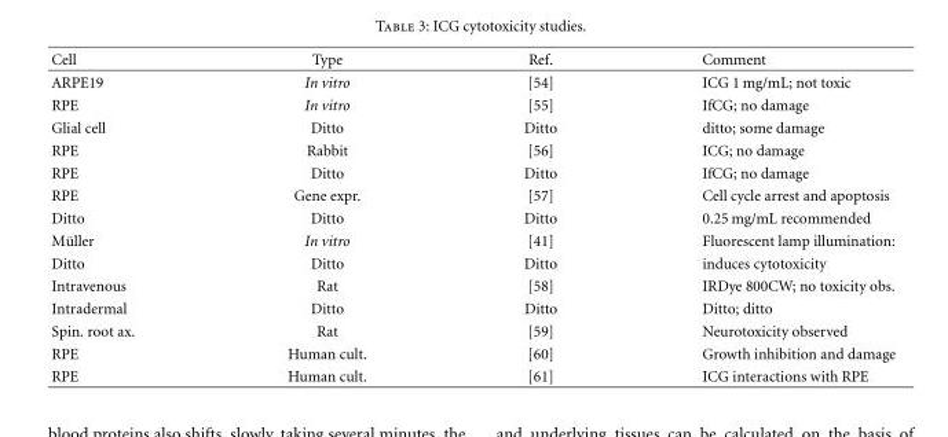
<table><thead><tr><td>Cell</td><td>Type</td><td>Ref.</td><td>Comment</td></tr></thead><tbody><tr><td>ARPE19</td><td>In vitro</td><td>[54]</td><td>ICG 1 mg/mL; not toxic</td></tr><tr><td>RPE</td><td>In vitro</td><td>[55]</td><td>IfCG; no damage</td></tr><tr><td>Glial cell</td><td>Ditto</td><td>Ditto</td><td>ditto; some damage</td></tr><tr><td>RPE</td><td>Rabbit</td><td>[56]</td><td>ICG; no damage</td></tr><tr><td>RPE</td><td>Ditto</td><td>Ditto</td><td>IfCG; no damage</td></tr><tr><td>RPE</td><td>Gene expr.</td><td>[57]</td><td>Cell cycle arrest and apoptosis</td></tr><tr><td>Ditto</td><td>Ditto</td><td>Ditto</td><td>0.25 mg/mL recommended</td></tr><tr><td>M¨uller</td><td>In vitro</td><td>[41]</td><td>Fluorescent lamp illumination:</td></tr><tr><td>Ditto</td><td>Ditto</td><td>Ditto</td><td>induces cytotoxicity</td></tr><tr><td>Intravenous</td><td>Rat</td><td>[58]</td><td>IRDye 800CW; no toxicity obs.</td></tr><tr><td>Intradermal</td><td>Ditto</td><td>Ditto</td><td>Ditto; ditto</td></tr><tr><td>Spin. root ax.</td><td>Rat</td><td>[59]</td><td>Neurotoxicity observed</td></tr><tr><td>RPE</td><td>Human cult.</td><td>[60]</td><td>Growth inhibition and damage</td></tr><tr><td>RPE</td><td>Human cult.</td><td>[61]</td><td>ICG interactions with RPE</td></tr></tbody></table>